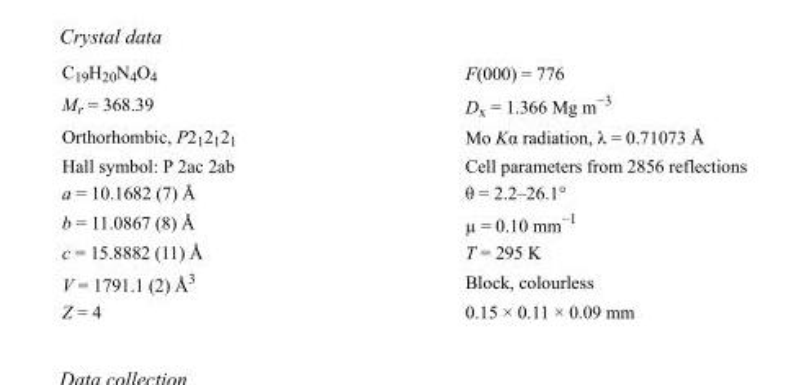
<table><tbody><tr><td>C<sub>19</sub>H<sub>20</sub>N<sub>4</sub>O<sub>4</sub></td><td>F(000) = 776</td></tr><tr><td>M<sub>r</sub> = 368.39</td><td>D<sub>x</sub> = 1.366 Mg m<sup>−3</sup></td></tr><tr><td>Orthorhombic, P2<sub>1</sub>2<sub>1</sub>2<sub>1</sub></td><td>Mo Kα radiation, λ = 0.71073 Å</td></tr><tr><td>Hall symbol: P 2ac 2ab</td><td>Cell parameters from 2856 reflections</td></tr><tr><td>a = 10.1682 (7) Å</td><td>θ = 2.2–26.1°</td></tr><tr><td>b = 11.0867 (8) Å</td><td>µ = 0.10 mm<sup>−1</sup></td></tr><tr><td>c = 15.8882 (11) Å</td><td>T = 295 K</td></tr><tr><td>V = 1791.1 (2) Å<sup>3</sup></td><td>Block, colourless</td></tr><tr><td>Z = 4</td><td>0.15 × 0.11 × 0.09 mm</td></tr></tbody></table>